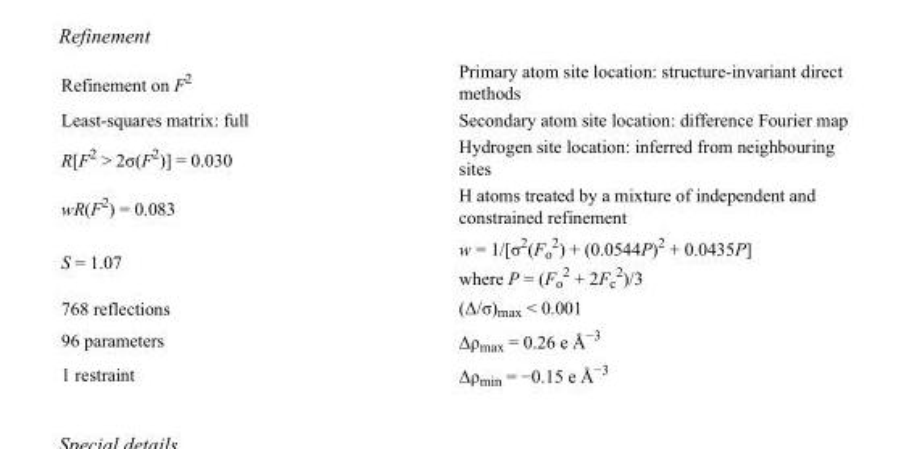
<table><tbody><tr><td>Refinement on F<sup>2</sup></td><td>Primary atom site location: structure-invariant direct methods</td></tr><tr><td>Least-squares matrix: full</td><td>Secondary atom site location: difference Fourier map</td></tr><tr><td>R[F<sup>2</sup> &gt; 2σ(F<sup>2</sup>)] = 0.030</td><td>Hydrogen site location: inferred from neighbouring sites</td></tr><tr><td>wR(F<sup>2</sup>) = 0.083</td><td>H atoms treated by a mixture of independent and constrained refinement</td></tr><tr><td>S = 1.07</td><td>w = 1/[σ<sup>2</sup>(F<sub>o</sub> <sup>2</sup>) + (0.0544P)<sup>2</sup> + 0.0435P] where P = (F<sub>o</sub> <sup>2</sup> + 2F<sub>c</sub> <sup>2</sup>)/3</td></tr><tr><td>768 reflections</td><td>(Δ/σ)<sub>max</sub> &lt; 0.001</td></tr><tr><td>96 parameters</td><td>Δρ<sub>max</sub> = 0.26 e Å<sup>−3</sup></td></tr><tr><td>1 restraint</td><td>Δρ<sub>min</sub> = −0.15 e Å<sup>−3</sup></td></tr></tbody></table>